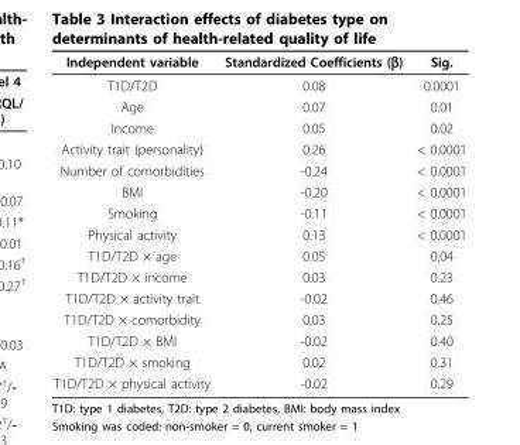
<table><thead><tr><td>Independent variable</td><td>Standardized Coefficients (β)</td><td>Sig.</td></tr></thead><tbody><tr><td>T1D/T2D</td><td>0.08</td><td>0.0001</td></tr><tr><td>Age</td><td>0.07</td><td>0.01</td></tr><tr><td>Income</td><td>0.05</td><td>0.02</td></tr><tr><td>Activity trait (personality)</td><td>0.26</td><td>&lt; 0.0001</td></tr><tr><td>Number of comorbidities</td><td>-0.24</td><td>&lt; 0.0001</td></tr><tr><td>BMI</td><td>-0.20</td><td>&lt; 0.0001</td></tr><tr><td>Smoking</td><td>-0.11</td><td>&lt; 0.0001</td></tr><tr><td>Physical activity</td><td>0.13</td><td>&lt; 0.0001</td></tr><tr><td>T1D/T2D × age</td><td>0.05</td><td>0.04</td></tr><tr><td>T1D/T2D × income</td><td>0.03</td><td>0.23</td></tr><tr><td>T1D/T2D × activity trait</td><td>-0.02</td><td>0.46</td></tr><tr><td>T1D/T2D × comorbidity</td><td>0.03</td><td>0.25</td></tr><tr><td>T1D/T2D × BMI</td><td>-0.02</td><td>0.40</td></tr><tr><td>T1D/T2D × smoking</td><td>0.02</td><td>0.31</td></tr><tr><td>T1D/T2D × physical activity</td><td>-0.02</td><td>0.29</td></tr></tbody></table>